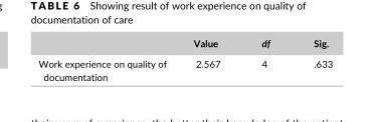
<table><thead><tr><td></td><td>Value</td><td>df</td><td>Sig.</td></tr></thead><tbody><tr><td>Work experience on quality of documentation</td><td>2.567</td><td>4</td><td>.633</td></tr></tbody></table>